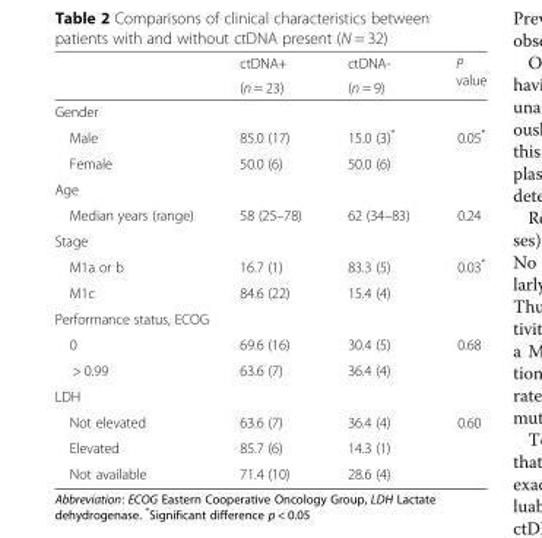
<table><thead><tr><td rowspan="2"></td><td rowspan="2">ctDNA+ (n = 23)</td><td rowspan="2">ctDNA- (n = 9)</td><td rowspan="2">P value</td></tr><tr></tr></thead><tbody><tr><td colspan="4">Gender</td></tr><tr><td>Male</td><td>85.0 (17)</td><td>15.0 (3)*</td><td>0.05*</td></tr><tr><td>Female</td><td>50.0 (6)</td><td>50.0 (6)</td><td></td></tr><tr><td colspan="4">Age</td></tr><tr><td>Median years (range)</td><td>58 (25–78)</td><td>62 (34–83)</td><td>0.24</td></tr><tr><td colspan="4">Stage</td></tr><tr><td>M1a or b</td><td>16.7 (1)</td><td>83.3 (5)</td><td>0.03*</td></tr><tr><td>M1c</td><td>84.6 (22)</td><td>15.4 (4)</td><td></td></tr><tr><td colspan="4">Performance status, ECOG</td></tr><tr><td>0</td><td>69.6 (16)</td><td>30.4 (5)</td><td>0.68</td></tr><tr><td>&gt; 0.99</td><td>63.6 (7)</td><td>36.4 (4)</td><td></td></tr><tr><td colspan="4">LDH</td></tr><tr><td>Not elevated</td><td>63.6 (7)</td><td>36.4 (4)</td><td>0.60</td></tr><tr><td>Elevated</td><td>85.7 (6)</td><td>14.3 (1)</td><td></td></tr><tr><td>Not available</td><td>71.4 (10)</td><td>28.6 (4)</td><td></td></tr></tbody></table>